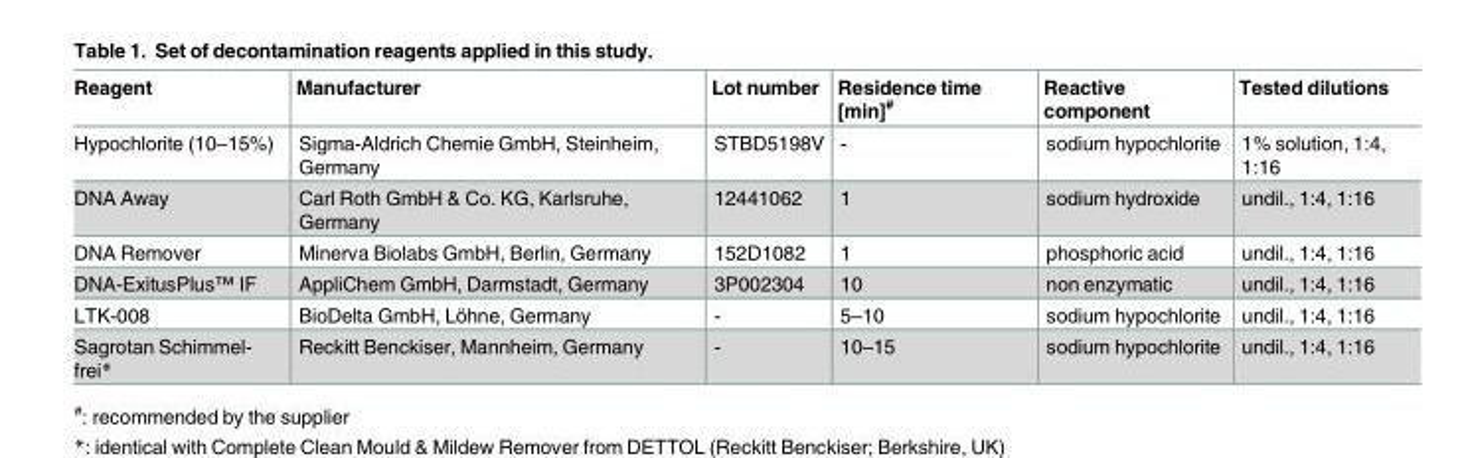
<table><thead><tr><td>Reagent</td><td>Manufacturer</td><td>Lot number</td><td>Residence time [min]<sup>#</sup></td><td>Reactive component</td><td>Tested dilutions</td></tr></thead><tbody><tr><td>Hypochlorite (10–15%)</td><td>Sigma-Aldrich Chemie GmbH, Steinheim, Germany</td><td>STBD5198V</td><td>-</td><td>sodium hypochlorite</td><td>1% solution, 1:4, 1:16</td></tr><tr><td>DNA Away</td><td>Carl Roth GmbH &amp; Co. KG, Karlsruhe, Germany</td><td>12441062</td><td>1</td><td>sodium hydroxide</td><td>undil., 1:4, 1:16</td></tr><tr><td>DNA Remover</td><td>Minerva Biolabs GmbH, Berlin, Germany</td><td>152D1082</td><td>1</td><td>phosphoric acid</td><td>undil., 1:4, 1:16</td></tr><tr><td>DNA-ExitusPlus<sup>™</sup> IF</td><td>AppliChem GmbH, Darmstadt, Germany</td><td>3P002304</td><td>10</td><td>non enzymatic</td><td>undil., 1:4, 1:16</td></tr><tr><td>LTK-008</td><td>BioDelta GmbH, Löhne, Germany</td><td>-</td><td>5–10</td><td>sodium hypochlorite</td><td>undil., 1:4, 1:16</td></tr><tr><td>Sagrotan Schimmel- frei*</td><td>Reckitt Benckiser, Mannheim, Germany</td><td>-</td><td>10–15</td><td>sodium hypochlorite</td><td>undil., 1:4, 1:16</td></tr></tbody></table>